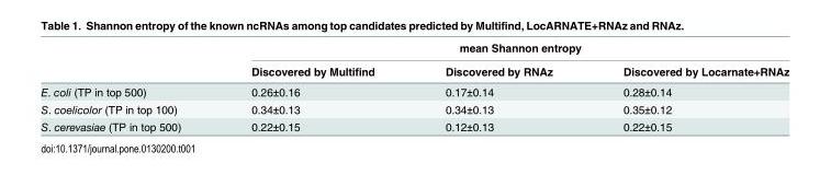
<table><thead><tr><td rowspan="2"></td><td colspan="3">mean Shannon entropy</td></tr><tr><td>Discovered by Multifind</td><td>Discovered by RNAz</td><td>Discovered by Locarnate+RNAz</td></tr></thead><tbody><tr><td>E. coli (TP in top 500)</td><td>0.26±0.16</td><td>0.17±0.14</td><td>0.28±0.14</td></tr><tr><td>S. coelicolor (TP in top 100)</td><td>0.34±0.13</td><td>0.34±0.13</td><td>0.35±0.12</td></tr><tr><td>S. cerevasiae (TP in top 500)</td><td>0.22±0.15</td><td>0.12±0.13</td><td>0.22±0.15</td></tr></tbody></table>